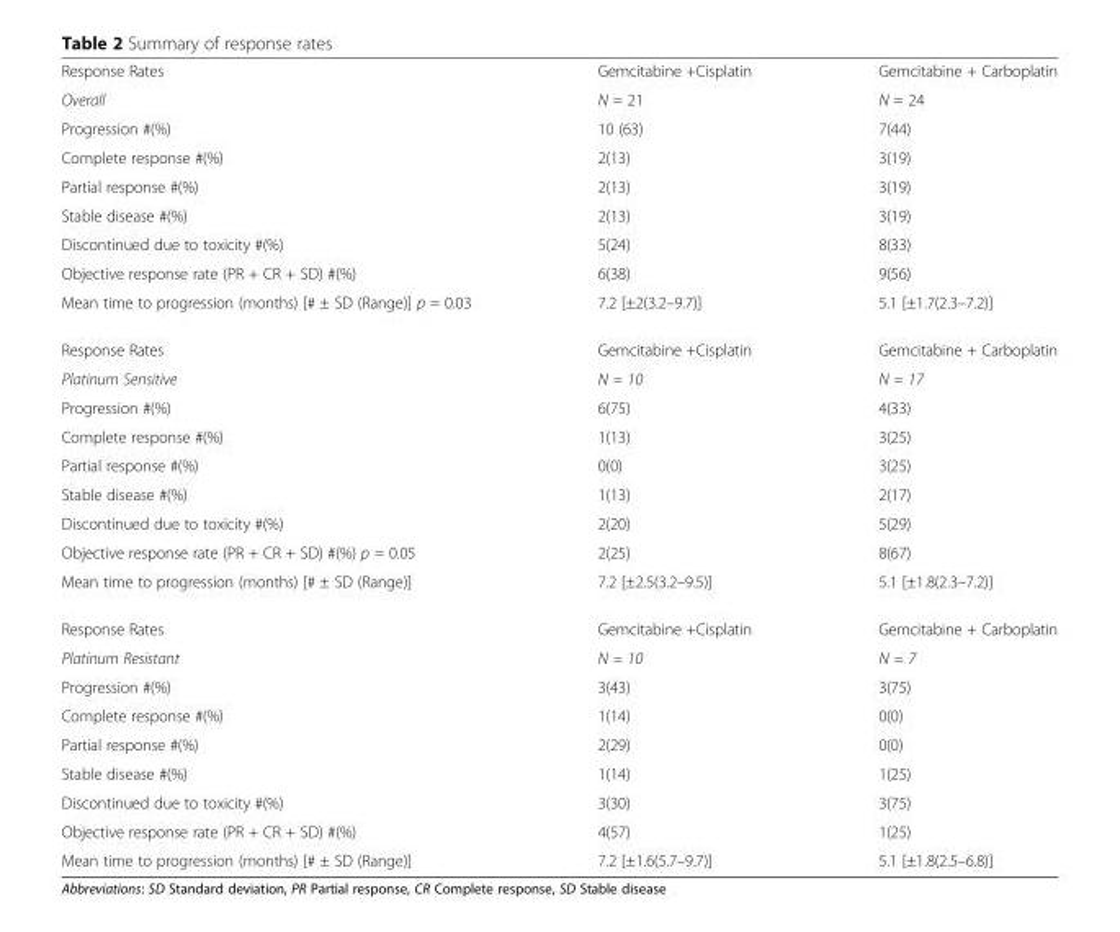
<table><tbody><tr><td>Response Rates</td><td>Gemcitabine +Cisplatin</td><td>Gemcitabine + Carboplatin</td></tr><tr><td>Overall</td><td>N = 21</td><td>N = 24</td></tr><tr><td>Progression #(%)</td><td>10 (63)</td><td>7(44)</td></tr><tr><td>Complete response #(%)</td><td>2(13)</td><td>3(19)</td></tr><tr><td>Partial response #(%)</td><td>2(13)</td><td>3(19)</td></tr><tr><td>Stable disease #(%)</td><td>2(13)</td><td>3(19)</td></tr><tr><td>Discontinued due to toxicity #(%)</td><td>5(24)</td><td>8(33)</td></tr><tr><td>Objective response rate (PR + CR + SD) #(%)</td><td>6(38)</td><td>9(56)</td></tr><tr><td>Mean time to progression (months) [# ± SD (Range)] p = 0.03</td><td>7.2 [±2(3.2–9.7)]</td><td>5.1 [±1.7(2.3–7.2)]</td></tr><tr><td>Response Rates</td><td>Gemcitabine +Cisplatin</td><td>Gemcitabine + Carboplatin</td></tr><tr><td>Platinum Sensitive</td><td>N = 10</td><td>N = 17</td></tr><tr><td>Progression #(%)</td><td>6(75)</td><td>4(33)</td></tr><tr><td>Complete response #(%)</td><td>1(13)</td><td>3(25)</td></tr><tr><td>Partial response #(%)</td><td>0(0)</td><td>3(25)</td></tr><tr><td>Stable disease #(%)</td><td>1(13)</td><td>2(17)</td></tr><tr><td>Discontinued due to toxicity #(%)</td><td>2(20)</td><td>5(29)</td></tr><tr><td>Objective response rate (PR + CR + SD) #(%) p = 0.05</td><td>2(25)</td><td>8(67)</td></tr><tr><td>Mean time to progression (months) [# ± SD (Range)]</td><td>7.2 [±2.5(3.2–9.5)]</td><td>5.1 [±1.8(2.3–7.2)]</td></tr><tr><td>Response Rates</td><td>Gemcitabine +Cisplatin</td><td>Gemcitabine + Carboplatin</td></tr><tr><td>Platinum Resistant</td><td>N = 10</td><td>N = 7</td></tr><tr><td>Progression #(%)</td><td>3(43)</td><td>3(75)</td></tr><tr><td>Complete response #(%)</td><td>1(14)</td><td>0(0)</td></tr><tr><td>Partial response #(%)</td><td>2(29)</td><td>0(0)</td></tr><tr><td>Stable disease #(%)</td><td>1(14)</td><td>1(25)</td></tr><tr><td>Discontinued due to toxicity #(%)</td><td>3(30)</td><td>3(75)</td></tr><tr><td>Objective response rate (PR + CR + SD) #(%)</td><td>4(57)</td><td>1(25)</td></tr><tr><td>Mean time to progression (months) [# ± SD (Range)]</td><td>7.2 [±1.6(5.7–9.7)]</td><td>5.1 [±1.8(2.5–6.8)]</td></tr></tbody></table>